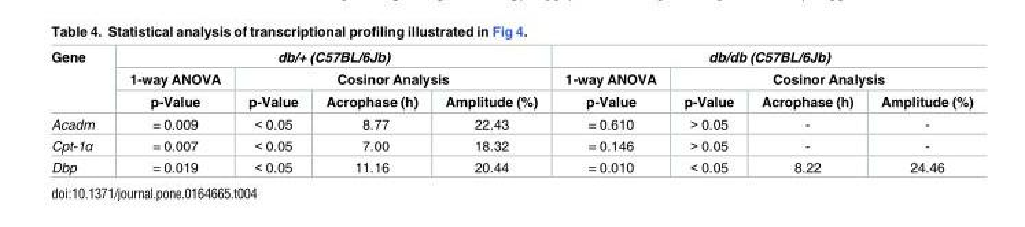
<table><thead><tr><td rowspan="3">Gene</td><td colspan="4">db/+ (C57BL/6Jb)</td><td colspan="4">db/db (C57BL/6Jb)</td></tr><tr><td rowspan="2">1-way ANOVA p-Value</td><td colspan="3">Cosinor Analysis</td><td rowspan="2">1-way ANOVA p-Value</td><td colspan="3">Cosinor Analysis</td></tr><tr><td>p-Value</td><td>Acrophase (h)</td><td>Amplitude (%)</td><td>p-Value</td><td>Acrophase (h)</td><td>Amplitude (%)</td></tr></thead><tbody><tr><td>Acadm</td><td>= 0.009</td><td>&lt; 0.05</td><td>8.77</td><td>22.43</td><td>= 0.610</td><td>&gt; 0.05</td><td>-</td><td>-</td></tr><tr><td>Cpt-1α</td><td>= 0.007</td><td>&lt; 0.05</td><td>7.00</td><td>18.32</td><td>= 0.146</td><td>&gt; 0.05</td><td>-</td><td>-</td></tr><tr><td>Dbp</td><td>= 0.019</td><td>&lt; 0.05</td><td>11.16</td><td>20.44</td><td>= 0.010</td><td>&lt; 0.05</td><td>8.22</td><td>24.46</td></tr></tbody></table>